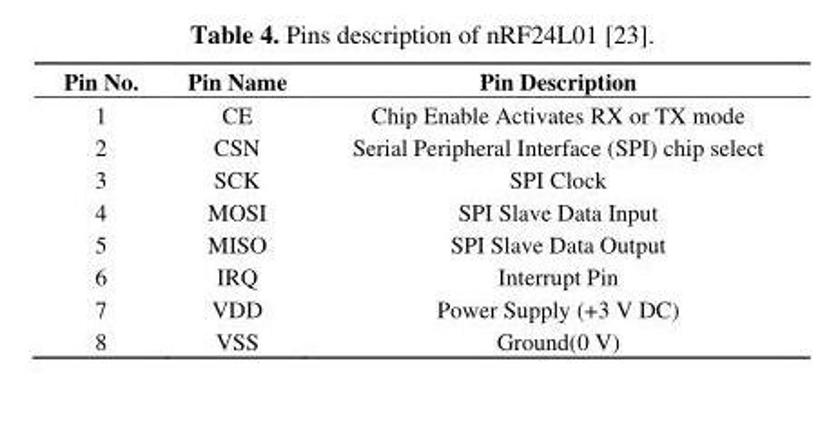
<table><thead><tr><td>Pin No.</td><td>Pin Name</td><td>Pin Description</td></tr></thead><tbody><tr><td>1</td><td>CE</td><td>Chip Enable Activates RX or TX mode</td></tr><tr><td>2</td><td>CSN</td><td>Serial Peripheral Interface (SPI) chip select</td></tr><tr><td>3</td><td>SCK</td><td>SPI Clock</td></tr><tr><td>4</td><td>MOSI</td><td>SPI Slave Data Input</td></tr><tr><td>5</td><td>MISO</td><td>SPI Slave Data Output</td></tr><tr><td>6</td><td>IRQ</td><td>Interrupt Pin</td></tr><tr><td>7</td><td>VDD</td><td>Power Supply (+3 V DC)</td></tr><tr><td>8</td><td>VSS</td><td>Ground(0 V)</td></tr></tbody></table>